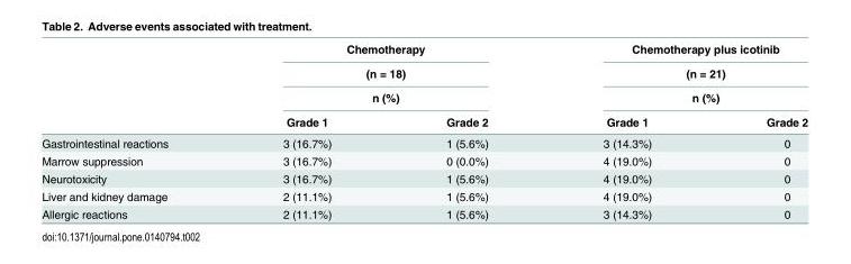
<table><thead><tr><td rowspan="4"></td><td rowspan="3" colspan="2">Chemotherapy (n = 18) n (%)</td><td rowspan="3" colspan="2">Chemotherapy plus icotinib (n = 21) n (%)</td></tr><tr></tr><tr></tr><tr><td>Grade 1</td><td>Grade 2</td><td>Grade 1</td><td>Grade 2</td></tr></thead><tbody><tr><td>Gastrointestinal reactions</td><td>3 (16.7%)</td><td>1 (5.6%)</td><td>3 (14.3%)</td><td>0</td></tr><tr><td>Marrow suppression</td><td>3 (16.7%)</td><td>0 (0.0%)</td><td>4 (19.0%)</td><td>0</td></tr><tr><td>Neurotoxicity</td><td>3 (16.7%)</td><td>1 (5.6%)</td><td>4 (19.0%)</td><td>0</td></tr><tr><td>Liver and kidney damage</td><td>2 (11.1%)</td><td>1 (5.6%)</td><td>4 (19.0%)</td><td>0</td></tr><tr><td>Allergic reactions</td><td>2 (11.1%)</td><td>1 (5.6%)</td><td>3 (14.3%)</td><td>0</td></tr></tbody></table>